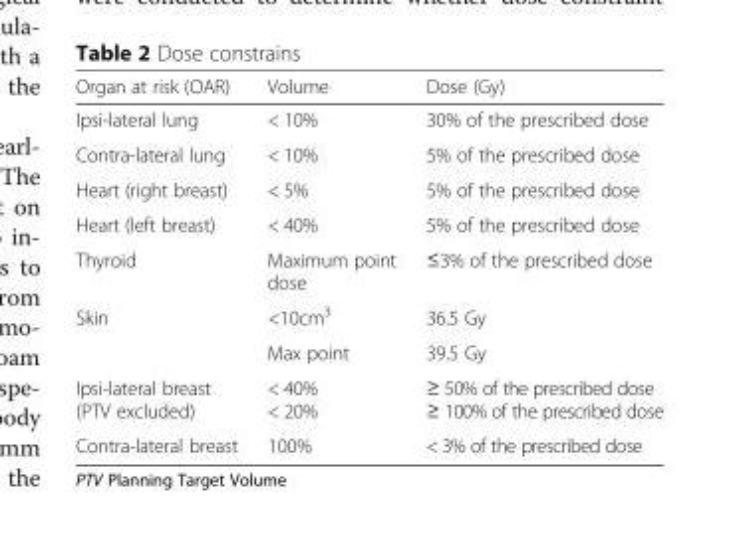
<table><thead><tr><td>Organ at risk (OAR)</td><td>Volume</td><td>Dose (Gy)</td></tr></thead><tbody><tr><td>Ipsi-lateral lung</td><td>&lt; 10%</td><td>30% of the prescribed dose</td></tr><tr><td>Contra-lateral lung</td><td>&lt; 10%</td><td>5% of the prescribed dose</td></tr><tr><td>Heart (right breast)</td><td>&lt; 5%</td><td>5% of the prescribed dose</td></tr><tr><td>Heart (left breast)</td><td>&lt; 40%</td><td>5% of the prescribed dose</td></tr><tr><td>Thyroid</td><td>Maximum point dose</td><td>≤3% of the prescribed dose</td></tr><tr><td rowspan="2">Skin</td><td>&lt;10cm<sup>3</sup></td><td>36.5 Gy</td></tr><tr><td>Max point</td><td>39.5 Gy</td></tr><tr><td>Ipsi-lateral breast (PTV excluded)</td><td>&lt; 40% &lt; 20%</td><td>≥ 50% of the prescribed dose ≥ 100% of the prescribed dose</td></tr><tr><td>Contra-lateral breast</td><td>100%</td><td>&lt; 3% of the prescribed dose</td></tr></tbody></table>